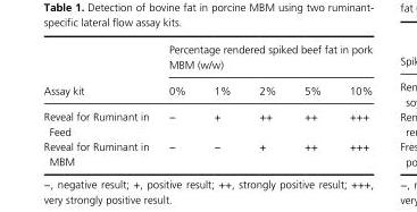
<table><thead><tr><td rowspan="2">Assay kit</td><td colspan="5">Percentage rendered spiked beef fat in pork MBM (w/w)</td></tr><tr><td>0%</td><td>1%</td><td>2%</td><td>5%</td><td>10%</td></tr></thead><tbody><tr><td>Reveal for Ruminant in Feed</td><td>−</td><td>+</td><td>++</td><td>++</td><td>+++</td></tr><tr><td>Reveal for Ruminant in MBM</td><td>−</td><td>−</td><td>+</td><td>++</td><td>+++</td></tr></tbody></table>